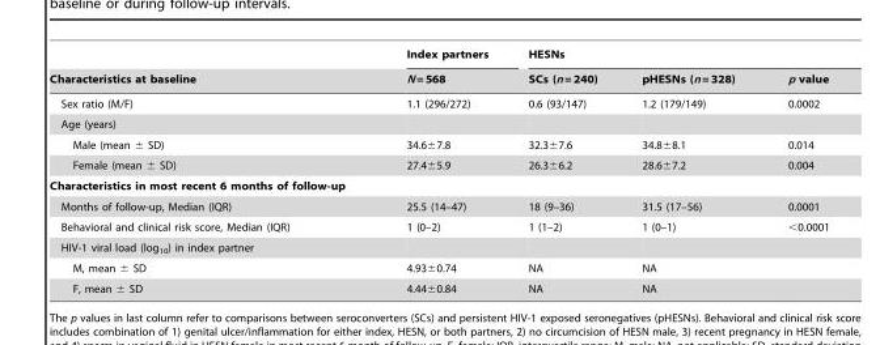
<table><thead><tr><td rowspan="2">Characteristics at baseline</td><td rowspan="2">Index partners N = 568</td><td colspan="3">HESNs</td></tr><tr><td>SCs (n = 240)</td><td>pHESNs (n = 328)</td><td>p value</td></tr></thead><tbody><tr><td>Sex ratio (M/F)</td><td>1.1 (296/272)</td><td>0.6 (93/147)</td><td>1.2 (179/149)</td><td>0.0002</td></tr><tr><td colspan="5">Age (years)</td></tr><tr><td>Male (mean ± SD)</td><td>34.6±7.8</td><td>32.3±7.6</td><td>34.8±8.1</td><td>0.014</td></tr><tr><td>Female (mean ± SD)</td><td>27.4±5.9</td><td>26.3±6.2</td><td>28.6±7.2</td><td>0.004</td></tr><tr><td colspan="5">Characteristics in most recent 6 months of follow-up</td></tr><tr><td>Months of follow-up, Median (IQR)</td><td>25.5 (14–47)</td><td>18 (9–36)</td><td>31.5 (17–56)</td><td>0.0001</td></tr><tr><td>Behavioral and clinical risk score, Median (IQR)</td><td>1 (0–2)</td><td>1 (1–2)</td><td>1 (0–1)</td><td>&lt;0.0001</td></tr><tr><td colspan="5">HIV-1 viral load (log<sub>10</sub>) in index partner</td></tr><tr><td>M, mean ± SD</td><td>4.93±0.74</td><td>NA</td><td>NA</td><td></td></tr><tr><td>F, mean ± SD</td><td>4.44±0.84</td><td>NA</td><td>NA</td><td></td></tr></tbody></table>